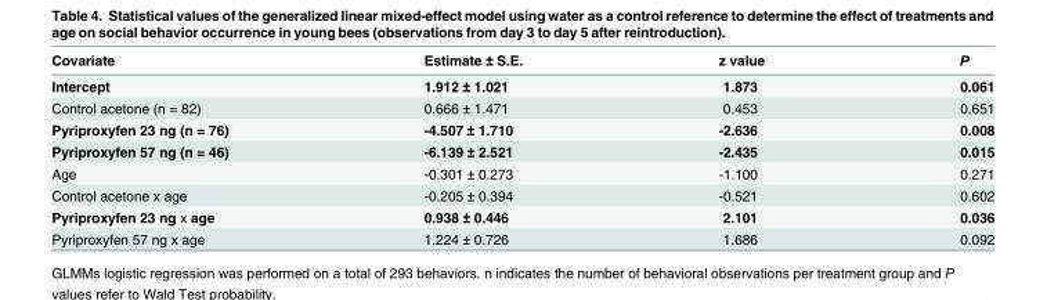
<table><thead><tr><td>Covariate</td><td>Estimate ± S.E.</td><td>z value</td><td>P</td></tr></thead><tbody><tr><td>Intercept</td><td>1.912 ± 1.021</td><td>1.873</td><td>0.061</td></tr><tr><td>Control acetone (n = 82)</td><td>0.666 ± 1.471</td><td>0.453</td><td>0.651</td></tr><tr><td>Pyriproxyfen 23 ng (n = 76)</td><td>-4.507 ± 1.710</td><td>-2.636</td><td>0.008</td></tr><tr><td>Pyriproxyfen 57 ng (n = 46)</td><td>-6.139 ± 2.521</td><td>-2.435</td><td>0.015</td></tr><tr><td>Age</td><td>-0.301 ± 0.273</td><td>-1.100</td><td>0.271</td></tr><tr><td>Control acetone x age</td><td>-0.205 ± 0.394</td><td>-0.521</td><td>0.602</td></tr><tr><td>Pyriproxyfen 23 ng x age</td><td>0.938 ± 0.446</td><td>2.101</td><td>0.036</td></tr><tr><td>Pyriproxyfen 57 ng x age</td><td>1.224 ± 0.726</td><td>1.686</td><td>0.092</td></tr></tbody></table>